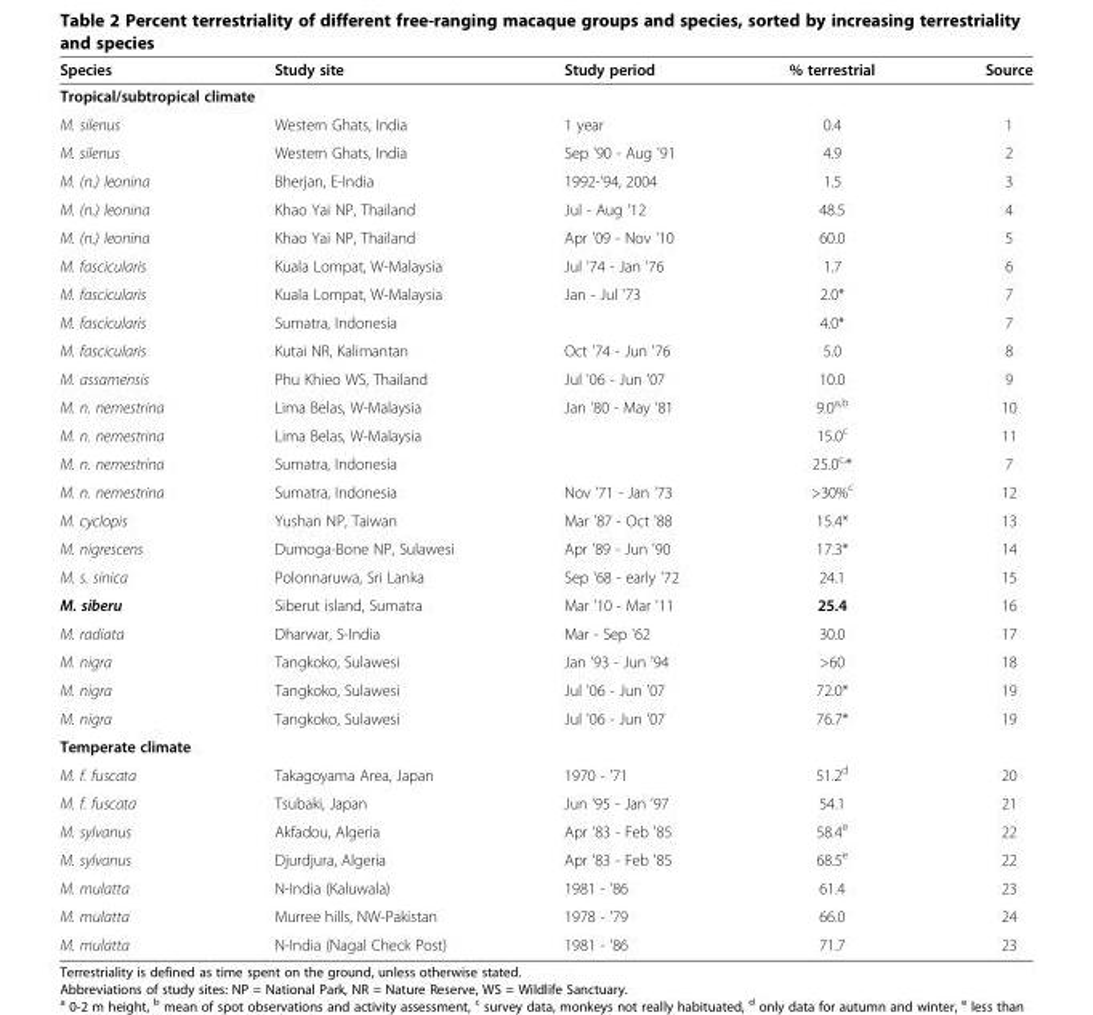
<table><thead><tr><td>Species</td><td>Study site</td><td>Study period</td><td>% terrestrial</td><td>Source</td></tr></thead><tbody><tr><td colspan="5">Tropical/subtropical climate</td></tr><tr><td>M. silenus</td><td>Western Ghats, India</td><td>1 year</td><td>0.4</td><td>1</td></tr><tr><td>M. silenus</td><td>Western Ghats, India</td><td>Sep &#x27;90 - Aug &#x27;91</td><td>4.9</td><td>2</td></tr><tr><td>M. (n.) leonina</td><td>Bherjan, E-India</td><td>1992-&#x27;94, 2004</td><td>1.5</td><td>3</td></tr><tr><td>M. (n.) leonina</td><td>Khao Yai NP, Thailand</td><td>Jul - Aug &#x27;12</td><td>48.5</td><td>4</td></tr><tr><td>M. (n.) leonina</td><td>Khao Yai NP, Thailand</td><td>Apr &#x27;09 - Nov &#x27;10</td><td>60.0</td><td>5</td></tr><tr><td>M. fascicularis</td><td>Kuala Lompat, W-Malaysia</td><td>Jul &#x27;74 - Jan &#x27;76</td><td>1.7</td><td>6</td></tr><tr><td>M. fascicularis</td><td>Kuala Lompat, W-Malaysia</td><td>Jan - Jul &#x27;73</td><td>2.0*</td><td>7</td></tr><tr><td>M. fascicularis</td><td>Sumatra, Indonesia</td><td></td><td>4.0*</td><td>7</td></tr><tr><td>M. fascicularis</td><td>Kutai NR, Kalimantan</td><td>Oct &#x27;74 - Jun &#x27;76</td><td>5.0</td><td>8</td></tr><tr><td>M. assamensis</td><td>Phu Khieo WS, Thailand</td><td>Jul &#x27;06 - Jun &#x27;07</td><td>10.0</td><td>9</td></tr><tr><td>M. n. nemestrina</td><td>Lima Belas, W-Malaysia</td><td>Jan &#x27;80 - May &#x27;81</td><td>9.0<sup>a,b</sup></td><td>10</td></tr><tr><td>M. n. nemestrina</td><td>Lima Belas, W-Malaysia</td><td></td><td>15.0<sup>c</sup></td><td>11</td></tr><tr><td>M. n. nemestrina</td><td>Sumatra, Indonesia</td><td></td><td>25.0<sup>c,</sup>*</td><td>7</td></tr><tr><td>M. n. nemestrina</td><td>Sumatra, Indonesia</td><td>Nov &#x27;71 - Jan &#x27;73</td><td>&gt;30%<sup>c</sup></td><td>12</td></tr><tr><td>M. cyclopis</td><td>Yushan NP, Taiwan</td><td>Mar &#x27;87 - Oct &#x27;88</td><td>15.4*</td><td>13</td></tr><tr><td>M. nigrescens</td><td>Dumoga-Bone NP, Sulawesi</td><td>Apr &#x27;89 - Jun &#x27;90</td><td>17.3*</td><td>14</td></tr><tr><td>M. s. sinica</td><td>Polonnaruwa, Sri Lanka</td><td>Sep &#x27;68 - early &#x27;72</td><td>24.1</td><td>15</td></tr><tr><td>M. siberu</td><td>Siberut island, Sumatra</td><td>Mar &#x27;10 - Mar &#x27;11</td><td>25.4</td><td>16</td></tr><tr><td>M. radiata</td><td>Dharwar, S-India</td><td>Mar - Sep &#x27;62</td><td>30.0</td><td>17</td></tr><tr><td>M. nigra</td><td>Tangkoko, Sulawesi</td><td>Jan &#x27;93 - Jun &#x27;94</td><td>&gt;60</td><td>18</td></tr><tr><td>M. nigra</td><td>Tangkoko, Sulawesi</td><td>Jul &#x27;06 - Jun &#x27;07</td><td>72.0*</td><td>19</td></tr><tr><td>M. nigra</td><td>Tangkoko, Sulawesi</td><td>Jul &#x27;06 - Jun &#x27;07</td><td>76.7*</td><td>19</td></tr><tr><td colspan="5">Temperate climate</td></tr><tr><td>M. f. fuscata</td><td>Takagoyama Area, Japan</td><td>1970 - &#x27;71</td><td>51.2<sup>d</sup></td><td>20</td></tr><tr><td>M. f. fuscata</td><td>Tsubaki, Japan</td><td>Jun &#x27;95 - Jan &#x27;97</td><td>54.1</td><td>21</td></tr><tr><td>M. sylvanus</td><td>Akfadou, Algeria</td><td>Apr &#x27;83 - Feb &#x27;85</td><td>58.4<sup>e</sup></td><td>22</td></tr><tr><td>M. sylvanus</td><td>Djurdjura, Algeria</td><td>Apr &#x27;83 - Feb &#x27;85</td><td>68.5<sup>e</sup></td><td>22</td></tr><tr><td>M. mulatta</td><td>N-India (Kaluwala)</td><td>1981 - &#x27;86</td><td>61.4</td><td>23</td></tr><tr><td>M. mulatta</td><td>Murree hills, NW-Pakistan</td><td>1978 - &#x27;79</td><td>66.0</td><td>24</td></tr><tr><td>M. mulatta</td><td>N-India (Nagal Check Post)</td><td>1981 - &#x27;86</td><td>71.7</td><td>23</td></tr></tbody></table>